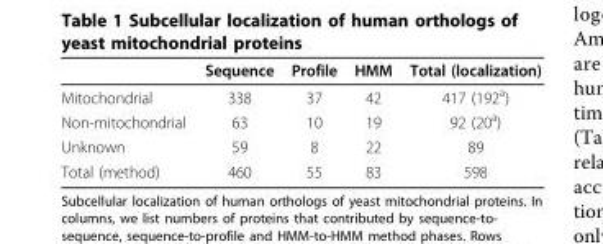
<table><thead><tr><td></td><td>Sequence</td><td>Profile</td><td>HMM</td><td>Total (localization)</td></tr></thead><tbody><tr><td>Mitochondrial</td><td>338</td><td>37</td><td>42</td><td>417 (192<sup>a</sup>)</td></tr><tr><td>Non-mitochondrial</td><td>63</td><td>10</td><td>19</td><td>92 (20<sup>a</sup>)</td></tr><tr><td>Unknown</td><td>59</td><td>8</td><td>22</td><td>89</td></tr><tr><td>Total (method)</td><td>460</td><td>55</td><td>83</td><td>598</td></tr></tbody></table>